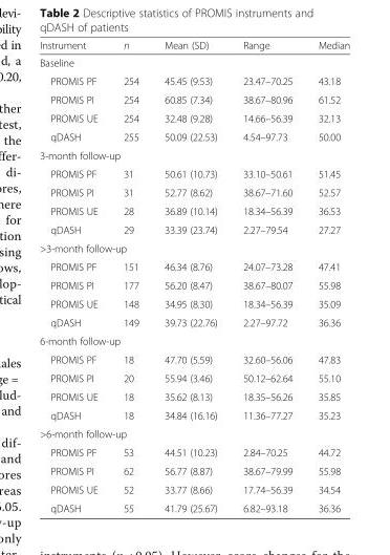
<table><thead><tr><td>Instrument</td><td>n</td><td>Mean (SD)</td><td>Range</td><td>Median</td></tr></thead><tbody><tr><td colspan="5">Baseline</td></tr><tr><td>PROMIS PF</td><td>254</td><td>45.45 (9.53)</td><td>23.47–70.25</td><td>43.18</td></tr><tr><td>PROMIS PI</td><td>254</td><td>60.85 (7.34)</td><td>38.67–80.96</td><td>61.52</td></tr><tr><td>PROMIS UE</td><td>254</td><td>32.48 (9.28)</td><td>14.66–56.39</td><td>32.13</td></tr><tr><td>qDASH</td><td>255</td><td>50.09 (22.53)</td><td>4.54–97.73</td><td>50.00</td></tr><tr><td colspan="5">3-month follow-up</td></tr><tr><td>PROMIS PF</td><td>31</td><td>50.61 (10.73)</td><td>33.10–50.61</td><td>51.45</td></tr><tr><td>PROMIS PI</td><td>31</td><td>52.77 (8.62)</td><td>38.67–71.60</td><td>52.57</td></tr><tr><td>PROMIS UE</td><td>28</td><td>36.89 (10.14)</td><td>18.34–56.39</td><td>36.53</td></tr><tr><td>qDASH</td><td>29</td><td>33.39 (23.74)</td><td>2.27–79.54</td><td>27.27</td></tr><tr><td colspan="5">&gt;3-month follow-up</td></tr><tr><td>PROMIS PF</td><td>151</td><td>46.34 (8.76)</td><td>24.07–73.28</td><td>47.41</td></tr><tr><td>PROMIS PI</td><td>177</td><td>56.20 (8.47)</td><td>38.67–80.07</td><td>55.98</td></tr><tr><td>PROMIS UE</td><td>148</td><td>34.95 (8.30)</td><td>18.34–56.39</td><td>35.09</td></tr><tr><td>qDASH</td><td>149</td><td>39.73 (22.76)</td><td>2.27–97.72</td><td>36.36</td></tr><tr><td colspan="5">6-month follow-up</td></tr><tr><td>PROMIS PF</td><td>18</td><td>47.70 (5.59)</td><td>32.60–56.06</td><td>47.83</td></tr><tr><td>PROMIS PI</td><td>20</td><td>55.94 (3.46)</td><td>50.12–62.64</td><td>55.10</td></tr><tr><td>PROMIS UE</td><td>18</td><td>35.62 (8.13)</td><td>18.35–56.26</td><td>35.85</td></tr><tr><td>qDASH</td><td>18</td><td>34.84 (16.16)</td><td>11.36–77.27</td><td>35.23</td></tr><tr><td colspan="5">&gt;6-month follow-up</td></tr><tr><td>PROMIS PF</td><td>53</td><td>44.51 (10.23)</td><td>2.84–70.25</td><td>44.72</td></tr><tr><td>PROMIS PI</td><td>62</td><td>56.77 (8.87)</td><td>38.67–79.99</td><td>55.98</td></tr><tr><td>PROMIS UE</td><td>52</td><td>33.77 (8.66)</td><td>17.74–56.39</td><td>34.54</td></tr><tr><td>qDASH</td><td>55</td><td>41.79 (25.67)</td><td>6.82–93.18</td><td>36.36</td></tr></tbody></table>